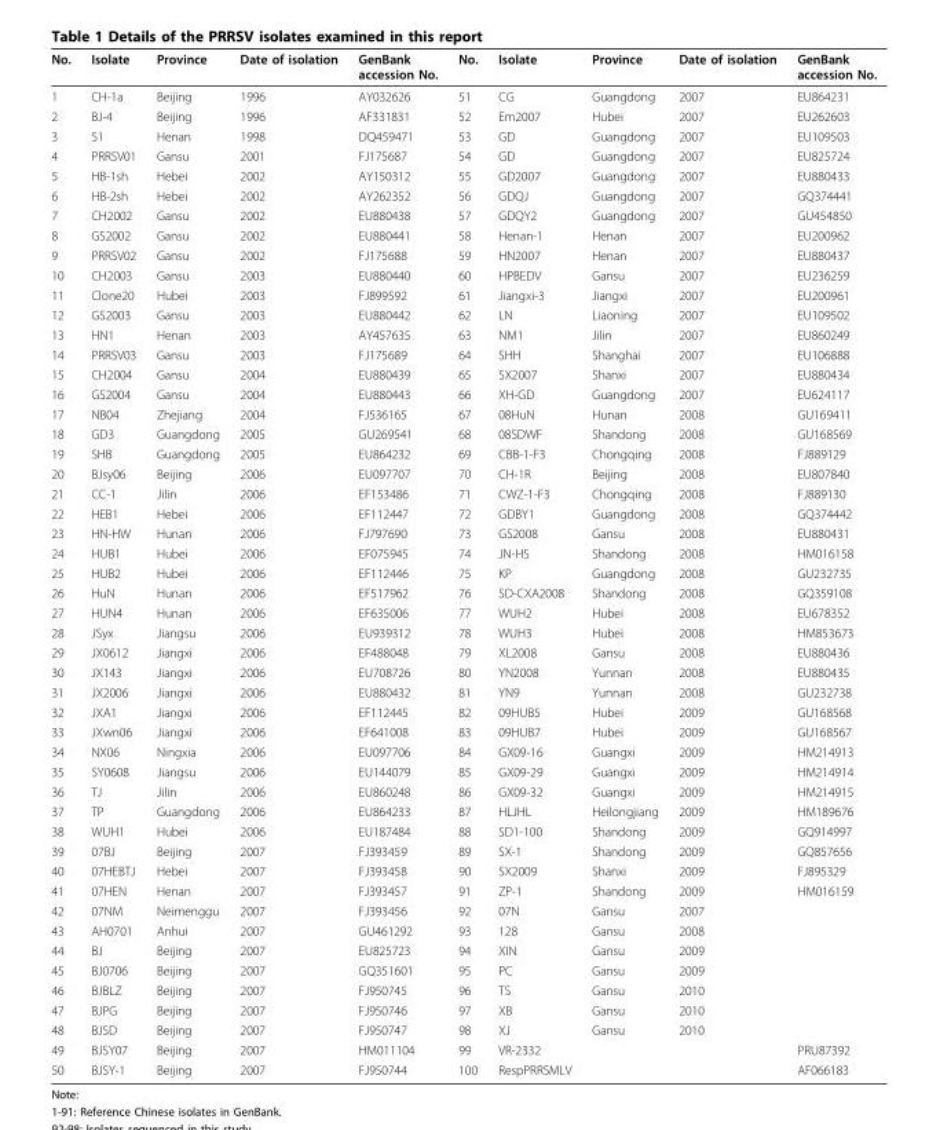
<table><thead><tr><td>No.</td><td>Isolate</td><td>Province</td><td>Date of isolation</td><td>GenBank accession No.</td><td>No.</td><td>Isolate</td><td>Province</td><td>Date of isolation</td><td>GenBank accession No.</td></tr></thead><tbody><tr><td>1</td><td>CH-1a</td><td>Beijing</td><td>1996</td><td>AY032626</td><td>51</td><td>CG</td><td>Guangdong</td><td>2007</td><td>EU864231</td></tr><tr><td>2</td><td>BJ-4</td><td>Beijing</td><td>1996</td><td>AF331831</td><td>52</td><td>Em2007</td><td>Hubei</td><td>2007</td><td>EU262603</td></tr><tr><td>3</td><td>S1</td><td>Henan</td><td>1998</td><td>DQ459471</td><td>53</td><td>GD</td><td>Guangdong</td><td>2007</td><td>EU109503</td></tr><tr><td>4</td><td>PRRSV01</td><td>Gansu</td><td>2001</td><td>FJ175687</td><td>54</td><td>GD</td><td>Guangdong</td><td>2007</td><td>EU825724</td></tr><tr><td>5</td><td>HB-1sh</td><td>Hebei</td><td>2002</td><td>AY150312</td><td>55</td><td>GD2007</td><td>Guangdong</td><td>2007</td><td>EU880433</td></tr><tr><td>6</td><td>HB-2sh</td><td>Hebei</td><td>2002</td><td>AY262352</td><td>56</td><td>GDQJ</td><td>Guangdong</td><td>2007</td><td>GQ374441</td></tr><tr><td>7</td><td>CH2002</td><td>Gansu</td><td>2002</td><td>EU880438</td><td>57</td><td>GDQY2</td><td>Guangdong</td><td>2007</td><td>GU454850</td></tr><tr><td>8</td><td>GS2002</td><td>Gansu</td><td>2002</td><td>EU880441</td><td>58</td><td>Henan-1</td><td>Henan</td><td>2007</td><td>EU200962</td></tr><tr><td>9</td><td>PRRSV02</td><td>Gansu</td><td>2002</td><td>FJ175688</td><td>59</td><td>HN2007</td><td>Henan</td><td>2007</td><td>EU880437</td></tr><tr><td>10</td><td>CH2003</td><td>Gansu</td><td>2003</td><td>EU880440</td><td>60</td><td>HPBEDV</td><td>Gansu</td><td>2007</td><td>EU236259</td></tr><tr><td>11</td><td>Clone20</td><td>Hubei</td><td>2003</td><td>FJ899592</td><td>61</td><td>Jiangxi-3</td><td>Jiangxi</td><td>2007</td><td>EU200961</td></tr><tr><td>12</td><td>GS2003</td><td>Gansu</td><td>2003</td><td>EU880442</td><td>62</td><td>LN</td><td>Liaoning</td><td>2007</td><td>EU109502</td></tr><tr><td>13</td><td>HN1</td><td>Henan</td><td>2003</td><td>AY457635</td><td>63</td><td>NM1</td><td>Jilin</td><td>2007</td><td>EU860249</td></tr><tr><td>14</td><td>PRRSV03</td><td>Gansu</td><td>2003</td><td>FJ175689</td><td>64</td><td>SHH</td><td>Shanghai</td><td>2007</td><td>EU106888</td></tr><tr><td>15</td><td>CH2004</td><td>Gansu</td><td>2004</td><td>EU880439</td><td>65</td><td>SX2007</td><td>Shanxi</td><td>2007</td><td>EU880434</td></tr><tr><td>16</td><td>GS2004</td><td>Gansu</td><td>2004</td><td>EU880443</td><td>66</td><td>XH-GD</td><td>Guangdong</td><td>2007</td><td>EU624117</td></tr><tr><td>17</td><td>NB04</td><td>Zhejiang</td><td>2004</td><td>FJ536165</td><td>67</td><td>08HuN</td><td>Hunan</td><td>2008</td><td>GU169411</td></tr><tr><td>18</td><td>GD3</td><td>Guangdong</td><td>2005</td><td>GU269541</td><td>68</td><td>08SDWF</td><td>Shandong</td><td>2008</td><td>GU168569</td></tr><tr><td>19</td><td>SHB</td><td>Guangdong</td><td>2005</td><td>EU864232</td><td>69</td><td>CBB-1-F3</td><td>Chongqing</td><td>2008</td><td>FJ889129</td></tr><tr><td>20</td><td>BJsy06</td><td>Beijing</td><td>2006</td><td>EU097707</td><td>70</td><td>CH-1R</td><td>Beijing</td><td>2008</td><td>EU807840</td></tr><tr><td>21</td><td>CC-1</td><td>Jilin</td><td>2006</td><td>EF153486</td><td>71</td><td>CWZ-1-F3</td><td>Chongqing</td><td>2008</td><td>FJ889130</td></tr><tr><td>22</td><td>HEB1</td><td>Hebei</td><td>2006</td><td>EF112447</td><td>72</td><td>GDBY1</td><td>Guangdong</td><td>2008</td><td>GQ374442</td></tr><tr><td>23</td><td>HN-HW</td><td>Hunan</td><td>2006</td><td>FJ797690</td><td>73</td><td>GS2008</td><td>Gansu</td><td>2008</td><td>EU880431</td></tr><tr><td>24</td><td>HUB1</td><td>Hubei</td><td>2006</td><td>EF075945</td><td>74</td><td>JN-HS</td><td>Shandong</td><td>2008</td><td>HM016158</td></tr><tr><td>25</td><td>HUB2</td><td>Hubei</td><td>2006</td><td>EF112446</td><td>75</td><td>KP</td><td>Guangdong</td><td>2008</td><td>GU232735</td></tr><tr><td>26</td><td>HuN</td><td>Hunan</td><td>2006</td><td>EF517962</td><td>76</td><td>SD-CXA2008</td><td>Shandong</td><td>2008</td><td>GQ359108</td></tr><tr><td>27</td><td>HUN4</td><td>Hunan</td><td>2006</td><td>EF635006</td><td>77</td><td>WUH2</td><td>Hubei</td><td>2008</td><td>EU678352</td></tr><tr><td>28</td><td>JSyx</td><td>Jiangsu</td><td>2006</td><td>EU939312</td><td>78</td><td>WUH3</td><td>Hubei</td><td>2008</td><td>HM853673</td></tr><tr><td>29</td><td>JX0612</td><td>Jiangxi</td><td>2006</td><td>EF488048</td><td>79</td><td>XL2008</td><td>Gansu</td><td>2008</td><td>EU880436</td></tr><tr><td>30</td><td>JX143</td><td>Jiangxi</td><td>2006</td><td>EU708726</td><td>80</td><td>YN2008</td><td>Yunnan</td><td>2008</td><td>EU880435</td></tr><tr><td>31</td><td>JX2006</td><td>Jiangxi</td><td>2006</td><td>EU880432</td><td>81</td><td>YN9</td><td>Yunnan</td><td>2008</td><td>GU232738</td></tr><tr><td>32</td><td>JXA1</td><td>Jiangxi</td><td>2006</td><td>EF112445</td><td>82</td><td>09HUB5</td><td>Hubei</td><td>2009</td><td>GU168568</td></tr><tr><td>33</td><td>JXwn06</td><td>Jiangxi</td><td>2006</td><td>EF641008</td><td>83</td><td>09HUB7</td><td>Hubei</td><td>2009</td><td>GU168567</td></tr><tr><td>34</td><td>NX06</td><td>Ningxia</td><td>2006</td><td>EU097706</td><td>84</td><td>GX09-16</td><td>Guangxi</td><td>2009</td><td>HM214913</td></tr><tr><td>35</td><td>SY0608</td><td>Jiangsu</td><td>2006</td><td>EU144079</td><td>85</td><td>GX09-29</td><td>Guangxi</td><td>2009</td><td>HM214914</td></tr><tr><td>36</td><td>TJ</td><td>Jilin</td><td>2006</td><td>EU860248</td><td>86</td><td>GX09-32</td><td>Guangxi</td><td>2009</td><td>HM214915</td></tr><tr><td>37</td><td>TP</td><td>Guangdong</td><td>2006</td><td>EU864233</td><td>87</td><td>HLJHL</td><td>Heilongjiang</td><td>2009</td><td>HM189676</td></tr><tr><td>38</td><td>WUH1</td><td>Hubei</td><td>2006</td><td>EU187484</td><td>88</td><td>SD1-100</td><td>Shandong</td><td>2009</td><td>GQ914997</td></tr><tr><td>39</td><td>07BJ</td><td>Beijing</td><td>2007</td><td>FJ393459</td><td>89</td><td>SX-1</td><td>Shandong</td><td>2009</td><td>GQ857656</td></tr><tr><td>40</td><td>07HEBTJ</td><td>Hebei</td><td>2007</td><td>FJ393458</td><td>90</td><td>SX2009</td><td>Shanxi</td><td>2009</td><td>FJ895329</td></tr><tr><td>41</td><td>07HEN</td><td>Henan</td><td>2007</td><td>FJ393457</td><td>91</td><td>ZP-1</td><td>Shandong</td><td>2009</td><td>HM016159</td></tr><tr><td>42</td><td>07NM</td><td>Neimenggu</td><td>2007</td><td>FJ393456</td><td>92</td><td>07N</td><td>Gansu</td><td>2007</td><td></td></tr><tr><td>43</td><td>AH0701</td><td>Anhui</td><td>2007</td><td>GU461292</td><td>93</td><td>128</td><td>Gansu</td><td>2008</td><td></td></tr><tr><td>44</td><td>BJ</td><td>Beijing</td><td>2007</td><td>EU825723</td><td>94</td><td>XIN</td><td>Gansu</td><td>2009</td><td></td></tr><tr><td>45</td><td>BJ0706</td><td>Beijing</td><td>2007</td><td>GQ351601</td><td>95</td><td>PC</td><td>Gansu</td><td>2009</td><td></td></tr><tr><td>46</td><td>BJBLZ</td><td>Beijing</td><td>2007</td><td>FJ950745</td><td>96</td><td>TS</td><td>Gansu</td><td>2010</td><td></td></tr><tr><td>47</td><td>BJPG</td><td>Beijing</td><td>2007</td><td>FJ950746</td><td>97</td><td>XB</td><td>Gansu</td><td>2010</td><td></td></tr><tr><td>48</td><td>BJSD</td><td>Beijing</td><td>2007</td><td>FJ950747</td><td>98</td><td>XJ</td><td>Gansu</td><td>2010</td><td></td></tr><tr><td>49</td><td>BJSY07</td><td>Beijing</td><td>2007</td><td>HM011104</td><td>99</td><td>VR-2332</td><td></td><td></td><td>PRU87392</td></tr><tr><td>50</td><td>BJSY-1</td><td>Beijing</td><td>2007</td><td>FJ950744</td><td>100</td><td>RespPRRSMLV</td><td></td><td></td><td>AF066183</td></tr></tbody></table>